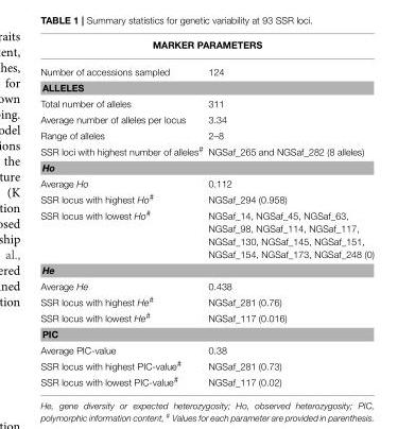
<table><thead><tr><td colspan="2">MARKER PARAMETERS</td></tr><tr><td>Number of accessions sampled</td><td>124</td></tr></thead><tbody><tr><td colspan="2">ALLELES</td></tr><tr><td>Total number of alleles</td><td>311</td></tr><tr><td>Average number of alleles per locus</td><td>3.34</td></tr><tr><td>Range of alleles</td><td>2–8</td></tr><tr><td>SSR loci with highest number of alleles<sup>#</sup></td><td>NGSaf_265 and NGSaf_282 (8 alleles)</td></tr><tr><td colspan="2">Ho</td></tr><tr><td>Average Ho</td><td>0.112</td></tr><tr><td>SSR locus with highest Ho<sup>#</sup></td><td>NGSaf_294 (0.958)</td></tr><tr><td>SSR locus with lowest Ho<sup>#</sup></td><td>NGSaf_14, NGSaf_45, NGSaf_63, NGSaf_98, NGSaf_114, NGSaf_117, NGSaf_130, NGSaf_145, NGSaf_151, NGSaf_154, NGSaf_173, NGSaf_248 (0)</td></tr><tr><td colspan="2">He</td></tr><tr><td>Average He</td><td>0.438</td></tr><tr><td>SSR locus with highest He<sup>#</sup></td><td>NGSaf_281 (0.76)</td></tr><tr><td>SSR locus with lowest He<sup>#</sup></td><td>NGSaf_117 (0.016)</td></tr><tr><td colspan="2">PIC</td></tr><tr><td>Average PIC-value</td><td>0.38</td></tr><tr><td>SSR locus with highest PIC-value<sup>#</sup></td><td>NGSaf_281 (0.73)</td></tr><tr><td>SSR locus with lowest PIC-value<sup>#</sup></td><td>NGSaf_117 (0.02)</td></tr></tbody></table>